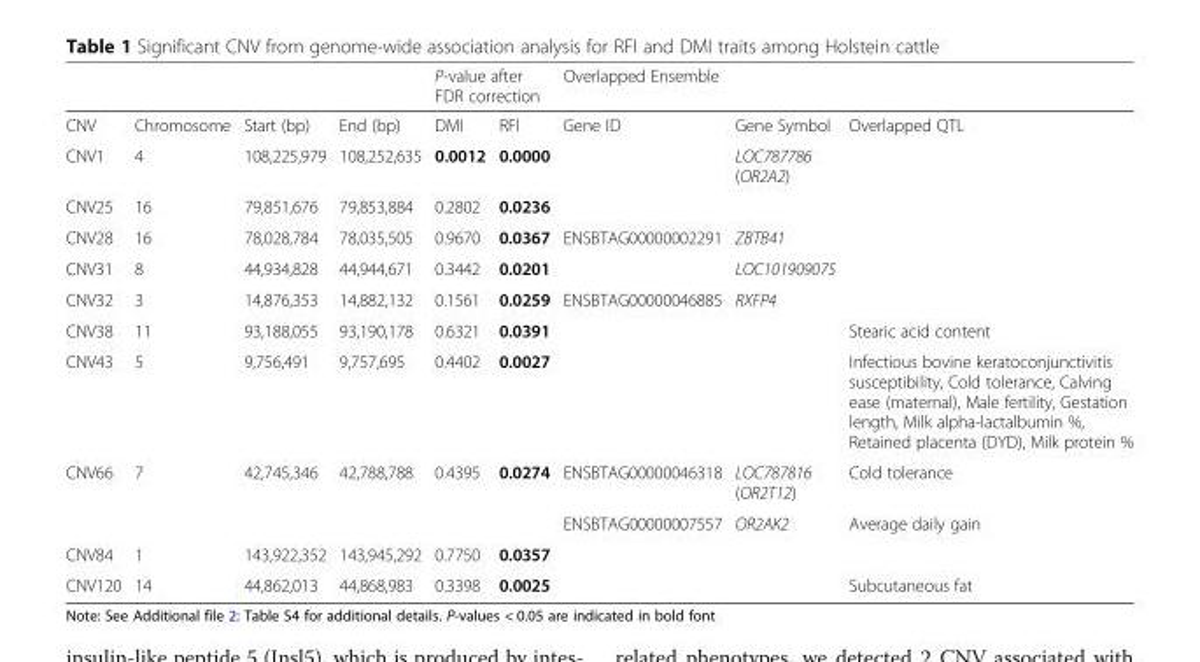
<table><thead><tr><td rowspan="2">CNV</td><td rowspan="2">Chromosome</td><td rowspan="2">Start (bp)</td><td rowspan="2">End (bp)</td><td colspan="2">P-value after FDR correction</td><td rowspan="2">Overlapped Ensemble Gene ID</td><td rowspan="2">Gene Symbol</td><td rowspan="2">Overlapped QTL</td></tr><tr><td>DMI</td><td>RFI</td></tr></thead><tbody><tr><td>CNV1</td><td>4</td><td>108,225,979</td><td>108,252,635</td><td>0.0012</td><td>0.0000</td><td></td><td>LOC787786 (OR2A2)</td><td></td></tr><tr><td>CNV25</td><td>16</td><td>79,851,676</td><td>79,853,884</td><td>0.2802</td><td>0.0236</td><td></td><td></td><td></td></tr><tr><td>CNV28</td><td>16</td><td>78,028,784</td><td>78,035,505</td><td>0.9670</td><td>0.0367</td><td>ENSBTAG00000002291</td><td>ZBTB41</td><td></td></tr><tr><td>CNV31</td><td>8</td><td>44,934,828</td><td>44,944,671</td><td>0.3442</td><td>0.0201</td><td></td><td>LOC101909075</td><td></td></tr><tr><td>CNV32</td><td>3</td><td>14,876,353</td><td>14,882,132</td><td>0.1561</td><td>0.0259</td><td>ENSBTAG00000046885</td><td>RXFP4</td><td></td></tr><tr><td>CNV38</td><td>11</td><td>93,188,055</td><td>93,190,178</td><td>0.6321</td><td>0.0391</td><td></td><td></td><td>Stearic acid content</td></tr><tr><td>CNV43</td><td>5</td><td>9,756,491</td><td>9,757,695</td><td>0.4402</td><td>0.0027</td><td></td><td></td><td>Infectious bovine keratoconjunctivitis susceptibility, Cold tolerance, Calving ease (maternal), Male fertility, Gestation length, Milk alpha-lactalbumin %, Retained placenta (DYD), Milk protein %</td></tr><tr><td rowspan="2">CNV66</td><td>7</td><td>42,745,346</td><td>42,788,788</td><td>0.4395</td><td>0.0274</td><td>ENSBTAG00000046318</td><td>LOC787816 (OR2T12)</td><td>Cold tolerance</td></tr><tr><td></td><td></td><td></td><td></td><td></td><td>ENSBTAG00000007557</td><td>OR2AK2</td><td>Average daily gain</td></tr><tr><td>CNV84</td><td>1</td><td>143,922,352</td><td>143,945,292</td><td>0.7750</td><td>0.0357</td><td></td><td></td><td></td></tr><tr><td>CNV120</td><td>14</td><td>44,862,013</td><td>44,868,983</td><td>0.3398</td><td>0.0025</td><td></td><td></td><td>Subcutaneous fat</td></tr></tbody></table>